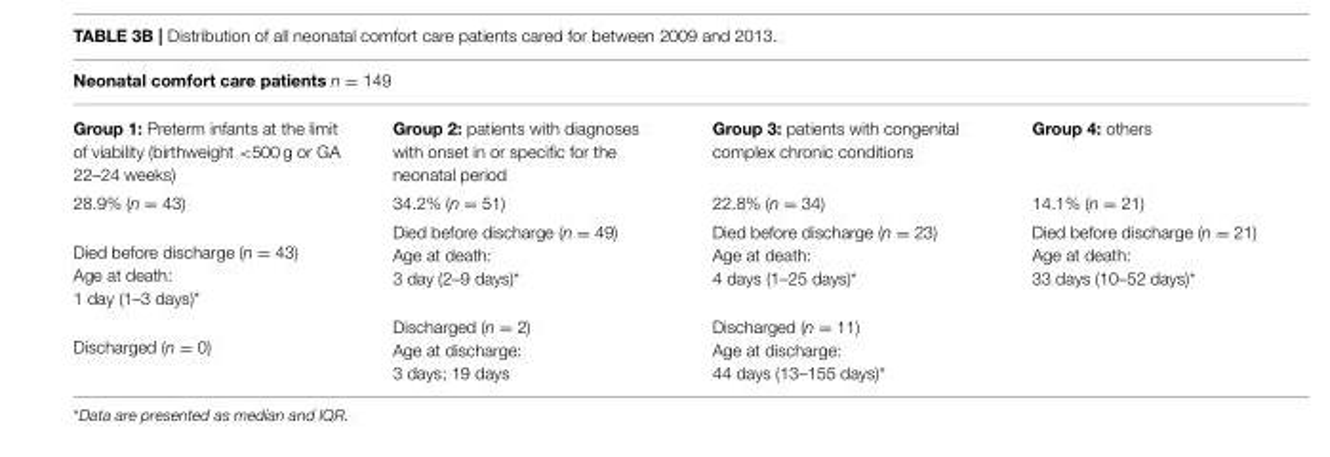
<table><thead><tr><td colspan="4">Neonatal comfort care patients n = 149</td></tr><tr><td>Group 1: Preterm infants at the limit of viability (birthweight &lt;500 g or GA 22–24 weeks)</td><td>Group 2: patients with diagnoses with onset in or specific for the neonatal period</td><td>Group 3: patients with congenital complex chronic conditions</td><td>Group 4: others</td></tr></thead><tbody><tr><td>28.9% (n = 43)</td><td>34.2% (n = 51)</td><td>22.8% (n = 34)</td><td>14.1% (n = 21)</td></tr><tr><td>Died before discharge (n = 43) Age at death: 1 day (1–3 days)*</td><td>Died before discharge (n = 49) Age at death: 3 day (2–9 days)*</td><td>Died before discharge (n = 23) Age at death: 4 days (1–25 days)*</td><td>Died before discharge (n = 21) Age at death: 33 days (10–52 days)*</td></tr><tr><td>Discharged (n = 0)</td><td>Discharged (n = 2) Age at discharge: 3 days; 19 days</td><td>Discharged (n = 11) Age at discharge: 44 days (13–155 days)*</td><td></td></tr></tbody></table>